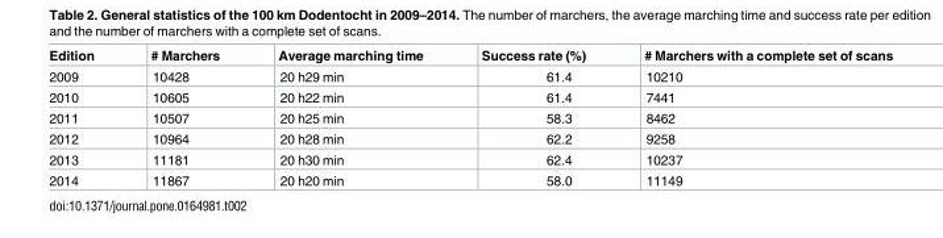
<table><thead><tr><td>Edition</td><td># Marchers</td><td>Average marching time</td><td>Success rate (%)</td><td># Marchers with a complete set of scans</td></tr></thead><tbody><tr><td>2009</td><td>10428</td><td>20 h29 min</td><td>61.4</td><td>10210</td></tr><tr><td>2010</td><td>10605</td><td>20 h22 min</td><td>61.4</td><td>7441</td></tr><tr><td>2011</td><td>10507</td><td>20 h25 min</td><td>58.3</td><td>8462</td></tr><tr><td>2012</td><td>10964</td><td>20 h28 min</td><td>62.2</td><td>9258</td></tr><tr><td>2013</td><td>11181</td><td>20 h30 min</td><td>62.4</td><td>10237</td></tr><tr><td>2014</td><td>11867</td><td>20 h20 min</td><td>58.0</td><td>11149</td></tr></tbody></table>